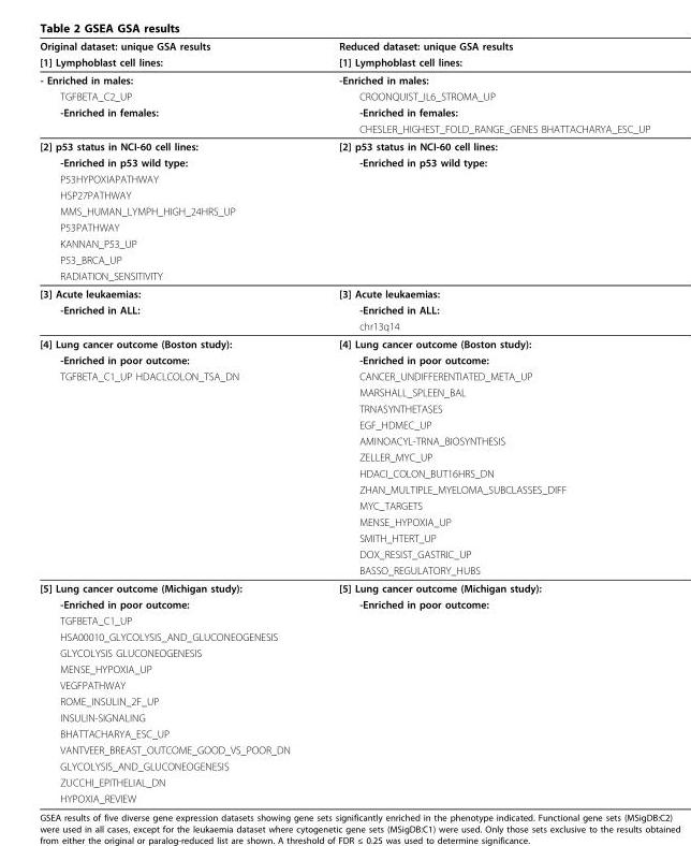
<table><thead><tr><td rowspan="2">Original dataset: unique GSA results [1] Lymphoblast cell lines:</td><td rowspan="2">Reduced dataset: unique GSA results [1] Lymphoblast cell lines:</td></tr><tr></tr></thead><tbody><tr><td>- Enriched in males:</td><td>-Enriched in males:</td></tr><tr><td>TGFBETA_C2_UP</td><td>CROONQUIST_IL6_STROMA_UP</td></tr><tr><td rowspan="2">-Enriched in females:</td><td>-Enriched in females:</td></tr><tr><td>CHESLER_HIGHEST_FOLD_RANGE_GENES BHATTACHARYA_ESC_UP</td></tr><tr><td>[2] p53 status in NCI-60 cell lines:</td><td>[2] p53 status in NCI-60 cell lines:</td></tr><tr><td>-Enriched in p53 wild type:</td><td>-Enriched in p53 wild type:</td></tr><tr><td colspan="2">P53HYPOXIAPATHWAY</td></tr><tr><td colspan="2">HSP27PATHWAY</td></tr><tr><td colspan="2">MMS_HUMAN_LYMPH_HIGH_24HRS_UP</td></tr><tr><td colspan="2">P53PATHWAY</td></tr><tr><td colspan="2">KANNAN_P53_UP</td></tr><tr><td colspan="2">P53_BRCA_UP</td></tr><tr><td colspan="2">RADIATION_SENSITIVITY</td></tr><tr><td>[3] Acute leukaemias:</td><td>[3] Acute leukaemias:</td></tr><tr><td rowspan="2">-Enriched in ALL:</td><td>-Enriched in ALL:</td></tr><tr><td>chr13q14</td></tr><tr><td>[4] Lung cancer outcome (Boston study):</td><td>[4] Lung cancer outcome (Boston study):</td></tr><tr><td>-Enriched in poor outcome:</td><td>-Enriched in poor outcome:</td></tr><tr><td rowspan="13">TGFBETA_C1_UP HDACLCOLON_TSA_DN</td><td>CANCER_UNDIFFERENTIATED_META_UP</td></tr><tr><td>MARSHALL_SPLEEN_BAL</td></tr><tr><td>TRNASYNTHETASES</td></tr><tr><td>EGF_HDMEC_UP</td></tr><tr><td>AMINOACYL-TRNA_BIOSYNTHESIS</td></tr><tr><td>ZELLER_MYC_UP</td></tr><tr><td>HDACI_COLON_BUT16HRS_DN</td></tr><tr><td>ZHAN_MULTIPLE_MYELOMA_SUBCLASSES_DIFF</td></tr><tr><td>MYC_TARGETS</td></tr><tr><td>MENSE_HYPOXIA_UP</td></tr><tr><td>SMITH_HTERT_UP</td></tr><tr><td>DOX_RESIST_GASTRIC_UP</td></tr><tr><td>BASSO_REGULATORY_HUBS</td></tr><tr><td>[5] Lung cancer outcome (Michigan study):</td><td>[5] Lung cancer outcome (Michigan study):</td></tr><tr><td>-Enriched in poor outcome:</td><td>-Enriched in poor outcome:</td></tr><tr><td colspan="2">TGFBETA_C1_UP</td></tr><tr><td colspan="2">HSA00010_GLYCOLYSIS_AND_GLUCONEOGENESIS</td></tr><tr><td colspan="2">GLYCOLYSIS GLUCONEOGENESIS</td></tr><tr><td colspan="2">MENSE_HYPOXIA_UP</td></tr><tr><td colspan="2">VEGFPATHWAY</td></tr><tr><td colspan="2">ROME_INSULIN_2F_UP</td></tr><tr><td colspan="2">INSULIN-SIGNALING</td></tr><tr><td colspan="2">BHATTACHARYA_ESC_UP</td></tr><tr><td colspan="2">VANTVEER_BREAST_OUTCOME_GOOD_VS_POOR_DN</td></tr><tr><td colspan="2">GLYCOLYSIS_AND_GLUCONEOGENESIS</td></tr><tr><td colspan="2">ZUCCHI_EPITHELIAL_DN</td></tr><tr><td>HYPOXIA_REVIEW</td><td></td></tr></tbody></table>